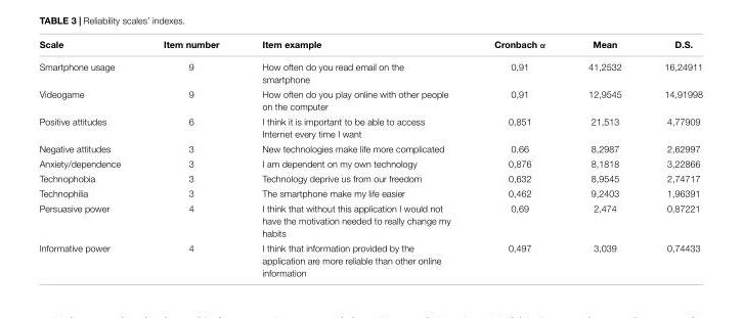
<table><thead><tr><td>Scale</td><td>Item number</td><td>Item example</td><td>Cronbach α</td><td>Mean</td><td>D.S.</td></tr></thead><tbody><tr><td>Smartphone usage</td><td>9</td><td>How often do you read email on the smartphone</td><td>0,91</td><td>41,2532</td><td>16,24911</td></tr><tr><td>Videogame</td><td>9</td><td>How often do you play online with other people on the computer</td><td>0,91</td><td>12,9545</td><td>14,91998</td></tr><tr><td>Positive attitudes</td><td>6</td><td>I think it is important to be able to access Internet every time I want</td><td>0,851</td><td>21,513</td><td>4,77909</td></tr><tr><td>Negative attitudes</td><td>3</td><td>New technologies make life more complicated</td><td>0,66</td><td>8,2987</td><td>2,62997</td></tr><tr><td>Anxiety/dependence</td><td>3</td><td>I am dependent on my own technology</td><td>0,876</td><td>8,1818</td><td>3,22866</td></tr><tr><td>Technophobia</td><td>3</td><td>Technology deprive us from our freedom</td><td>0,632</td><td>8,9545</td><td>2,74717</td></tr><tr><td>Technophilia</td><td>3</td><td>The smartphone make my life easier</td><td>0,462</td><td>9,2403</td><td>1,96391</td></tr><tr><td>Persuasive power</td><td>4</td><td>I think that without this application I would not have the motivation needed to really change my habits</td><td>0,69</td><td>2,474</td><td>0,87221</td></tr><tr><td>Informative power</td><td>4</td><td>I think that information provided by the application are more reliable than other online information</td><td>0,497</td><td>3,039</td><td>0,74433</td></tr></tbody></table>